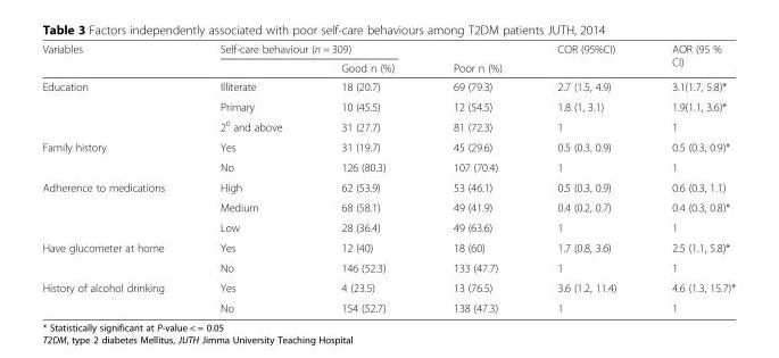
<table><thead><tr><td rowspan="2">Variables</td><td colspan="2">Self-care behaviour (n = 309)</td><td rowspan="2">Poor n (%)</td><td rowspan="2">COR (95%CI)</td><td rowspan="2">AOR (95 % CI)</td></tr><tr><td></td><td>Good n (%)</td></tr></thead><tbody><tr><td rowspan="3">Education</td><td>Illiterate</td><td>18 (20.7)</td><td>69 (79.3)</td><td>2.7 (1.5, 4.9)</td><td>3.1(1.7, 5.8)*</td></tr><tr><td>Primary</td><td>10 (45.5)</td><td>12 (54.5)</td><td>1.8 (1, 3.1)</td><td>1.9(1.1, 3.6)*</td></tr><tr><td>2<sup>0</sup> and above</td><td>31 (27.7)</td><td>81 (72.3)</td><td>1</td><td>1</td></tr><tr><td rowspan="2">Family history</td><td>Yes</td><td>31 (19.7)</td><td>45 (29.6)</td><td>0.5 (0.3, 0.9)</td><td>0.5 (0.3, 0.9)*</td></tr><tr><td>No</td><td>126 (80.3)</td><td>107 (70.4)</td><td>1</td><td>1</td></tr><tr><td rowspan="3">Adherence to medications</td><td>High</td><td>62 (53.9)</td><td>53 (46.1)</td><td>0.5 (0.3, 0.9)</td><td>0.6 (0.3, 1.1)</td></tr><tr><td>Medium</td><td>68 (58.1)</td><td>49 (41.9)</td><td>0.4 (0.2, 0.7)</td><td>0.4 (0.3, 0.8)*</td></tr><tr><td>Low</td><td>28 (36.4)</td><td>49 (63.6)</td><td>1</td><td>1</td></tr><tr><td rowspan="2">Have glucometer at home</td><td>Yes</td><td>12 (40)</td><td>18 (60)</td><td>1.7 (0.8, 3.6)</td><td>2.5 (1.1, 5.8)*</td></tr><tr><td>No</td><td>146 (52.3)</td><td>133 (47.7)</td><td>1</td><td>1</td></tr><tr><td rowspan="2">History of alcohol drinking</td><td>Yes</td><td>4 (23.5)</td><td>13 (76.5)</td><td>3.6 (1.2, 11.4)</td><td>4.6 (1.3, 15.7)*</td></tr><tr><td>No</td><td>154 (52.7)</td><td>138 (47.3)</td><td>1</td><td>1</td></tr></tbody></table>